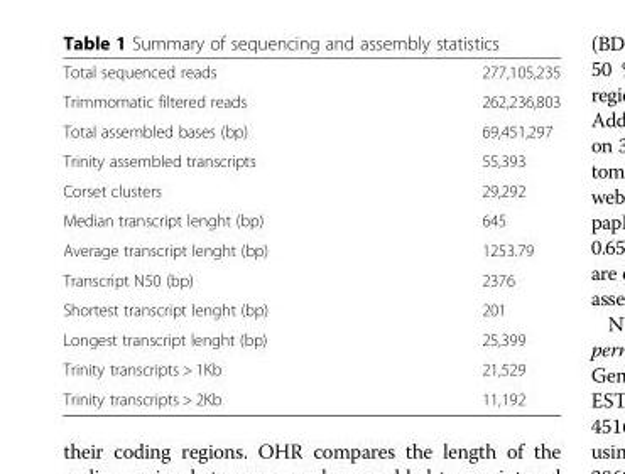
<table><tbody><tr><td>Total sequenced reads</td><td>277,105,235</td></tr><tr><td>Trimmomatic filtered reads</td><td>262,236,803</td></tr><tr><td>Total assembled bases (bp)</td><td>69,451,297</td></tr><tr><td>Trinity assembled transcripts</td><td>55,393</td></tr><tr><td>Corset clusters</td><td>29,292</td></tr><tr><td>Median transcript lenght (bp)</td><td>645</td></tr><tr><td>Average transcript lenght (bp)</td><td>1253.79</td></tr><tr><td>Transcript N50 (bp)</td><td>2376</td></tr><tr><td>Shortest transcript lenght (bp)</td><td>201</td></tr><tr><td>Longest transcript lenght (bp)</td><td>25,399</td></tr><tr><td>Trinity transcripts &gt; 1Kb</td><td>21,529</td></tr><tr><td>Trinity transcripts &gt; 2Kb</td><td>11,192</td></tr></tbody></table>